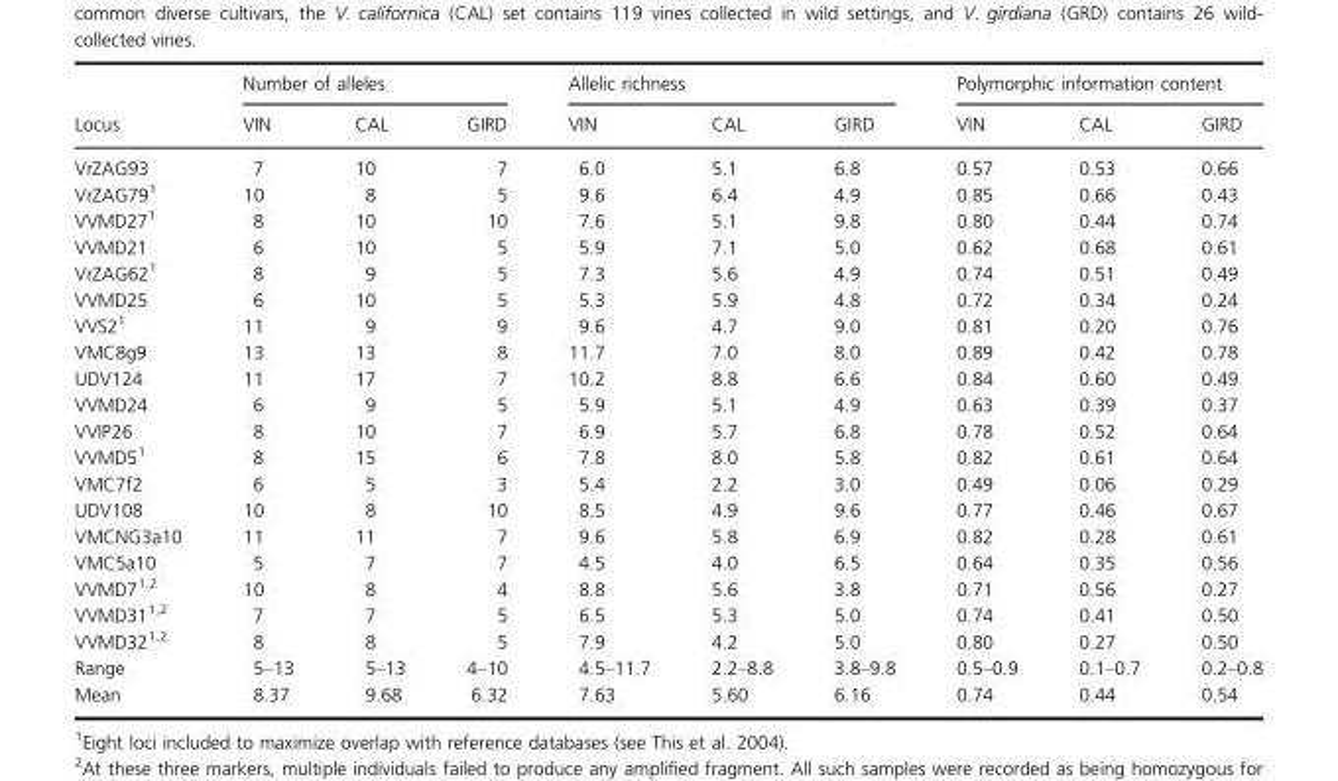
<table><thead><tr><td rowspan="2">Locus</td><td colspan="3">Number of alleles</td><td colspan="3">Allelic richness</td><td colspan="3">Polymorphic information content</td></tr><tr><td>VIN</td><td>CAL</td><td>GIRD</td><td>VIN</td><td>CAL</td><td>GIRD</td><td>VIN</td><td>CAL</td><td>GIRD</td></tr></thead><tbody><tr><td>VrZAG93</td><td>7</td><td>10</td><td>7</td><td>6.0</td><td>5.1</td><td>6.8</td><td>0.57</td><td>0.53</td><td>0.66</td></tr><tr><td>VrZAG791</td><td>10</td><td>8</td><td>5</td><td>9.6</td><td>6.4</td><td>4.9</td><td>0.85</td><td>0.66</td><td>0.43</td></tr><tr><td>VVMD271</td><td>8</td><td>10</td><td>10</td><td>7.6</td><td>5.1</td><td>9.8</td><td>0.80</td><td>0.44</td><td>0.74</td></tr><tr><td>VVMD21</td><td>6</td><td>10</td><td>5</td><td>5.9</td><td>7.1</td><td>5.0</td><td>0.62</td><td>0.68</td><td>0.61</td></tr><tr><td>VrZAG621</td><td>8</td><td>9</td><td>5</td><td>7.3</td><td>5.6</td><td>4.9</td><td>0.74</td><td>0.51</td><td>0.49</td></tr><tr><td>VVMD25</td><td>6</td><td>10</td><td>5</td><td>5.3</td><td>5.9</td><td>4.8</td><td>0.72</td><td>0.34</td><td>0.24</td></tr><tr><td>VVS21</td><td>11</td><td>9</td><td>9</td><td>9.6</td><td>4.7</td><td>9.0</td><td>0.81</td><td>0.20</td><td>0.76</td></tr><tr><td>VMC8g9</td><td>13</td><td>13</td><td>8</td><td>11.7</td><td>7.0</td><td>8.0</td><td>0.89</td><td>0.42</td><td>0.78</td></tr><tr><td>UDV124</td><td>11</td><td>17</td><td>7</td><td>10.2</td><td>8.8</td><td>6.6</td><td>0.84</td><td>0.60</td><td>0.49</td></tr><tr><td>VVMD24</td><td>6</td><td>9</td><td>5</td><td>5.9</td><td>5.1</td><td>4.9</td><td>0.63</td><td>0.39</td><td>0.37</td></tr><tr><td>VVIP26</td><td>8</td><td>10</td><td>7</td><td>6.9</td><td>5.7</td><td>6.8</td><td>0.78</td><td>0.52</td><td>0.64</td></tr><tr><td>VVMD51</td><td>8</td><td>15</td><td>6</td><td>7.8</td><td>8.0</td><td>5.8</td><td>0.82</td><td>0.61</td><td>0.64</td></tr><tr><td>VMC7f2</td><td>6</td><td>5</td><td>3</td><td>5.4</td><td>2.2</td><td>3.0</td><td>0.49</td><td>0.06</td><td>0.29</td></tr><tr><td>UDV108</td><td>10</td><td>8</td><td>10</td><td>8.5</td><td>4.9</td><td>9.6</td><td>0.77</td><td>0.46</td><td>0.67</td></tr><tr><td>VMCNG3a10</td><td>11</td><td>11</td><td>7</td><td>9.6</td><td>5.8</td><td>6.9</td><td>0.82</td><td>0.28</td><td>0.61</td></tr><tr><td>VMC5a10</td><td>5</td><td>7</td><td>7</td><td>4.5</td><td>4.0</td><td>6.5</td><td>0.64</td><td>0.35</td><td>0.56</td></tr><tr><td>VVMD71,2</td><td>10</td><td>8</td><td>4</td><td>8.8</td><td>5.6</td><td>3.8</td><td>0.71</td><td>0.56</td><td>0.27</td></tr><tr><td>VVMD311,2</td><td>7</td><td>7</td><td>5</td><td>6.5</td><td>5.3</td><td>5.0</td><td>0.74</td><td>0.41</td><td>0.50</td></tr><tr><td>VVMD321,2</td><td>8</td><td>8</td><td>5</td><td>7.9</td><td>4.2</td><td>5.0</td><td>0.80</td><td>0.27</td><td>0.50</td></tr><tr><td>Range</td><td>5–13</td><td>5–13</td><td>4–10</td><td>4.5–11.7</td><td>2.2–8.8</td><td>3.8–9.8</td><td>0.5–0.9</td><td>0.1–0.7</td><td>0.2–0.8</td></tr><tr><td>Mean</td><td>8.37</td><td>9.68</td><td>6.32</td><td>7.63</td><td>5.60</td><td>6.16</td><td>0.74</td><td>0.44</td><td>0.54</td></tr></tbody></table>